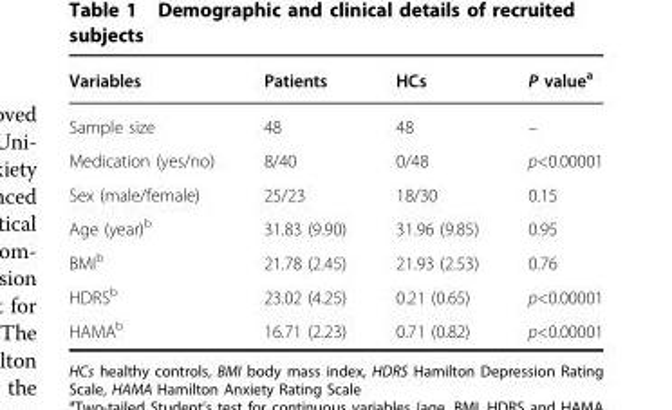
<table><thead><tr><td>Variables</td><td>Patients</td><td>HCs</td><td>P value<sup>a</sup></td></tr></thead><tbody><tr><td>Sample size</td><td>48</td><td>48</td><td>–</td></tr><tr><td>Medication (yes/no)</td><td>8/40</td><td>0/48</td><td>p&lt;0.00001</td></tr><tr><td>Sex (male/female)</td><td>25/23</td><td>18/30</td><td>0.15</td></tr><tr><td>Age (year)<sup>b</sup></td><td>31.83 (9.90)</td><td>31.96 (9.85)</td><td>0.95</td></tr><tr><td>BMI<sup>b</sup></td><td>21.78 (2.45)</td><td>21.93 (2.53)</td><td>0.76</td></tr><tr><td>HDRS<sup>b</sup></td><td>23.02 (4.25)</td><td>0.21 (0.65)</td><td>p&lt;0.00001</td></tr><tr><td>HAMA<sup>b</sup></td><td>16.71 (2.23)</td><td>0.71 (0.82)</td><td>p&lt;0.00001</td></tr></tbody></table>